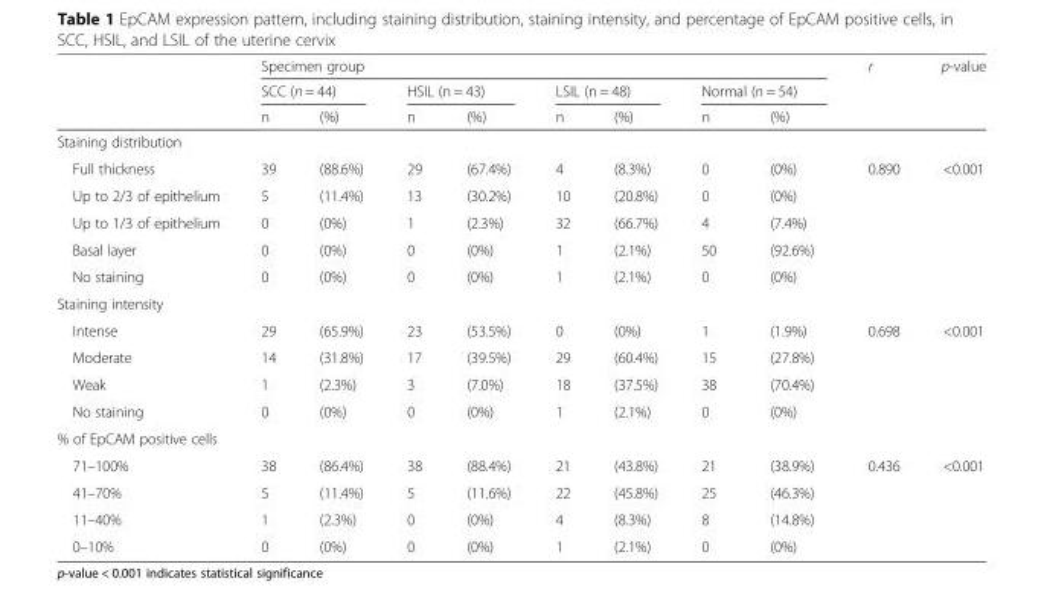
<table><thead><tr><td rowspan="3"></td><td colspan="8">Specimen group</td><td rowspan="3">r</td><td rowspan="3">p-value</td></tr><tr><td colspan="2">SCC (n = 44)</td><td colspan="2">HSIL (n = 43)</td><td colspan="2">LSIL (n = 48)</td><td colspan="2">Normal (n = 54)</td></tr><tr><td>n</td><td>(%)</td><td>n</td><td>(%)</td><td>n</td><td>(%)</td><td>n</td><td>(%)</td></tr></thead><tbody><tr><td colspan="11">Staining distribution</td></tr><tr><td>Full thickness</td><td>39</td><td>(88.6%)</td><td>29</td><td>(67.4%)</td><td>4</td><td>(8.3%)</td><td>0</td><td>(0%)</td><td>0.890</td><td>&lt;0.001</td></tr><tr><td>Up to 2/3 of epithelium</td><td>5</td><td>(11.4%)</td><td>13</td><td>(30.2%)</td><td>10</td><td>(20.8%)</td><td>0</td><td>(0%)</td><td></td><td></td></tr><tr><td>Up to 1/3 of epithelium</td><td>0</td><td>(0%)</td><td>1</td><td>(2.3%)</td><td>32</td><td>(66.7%)</td><td>4</td><td>(7.4%)</td><td></td><td></td></tr><tr><td>Basal layer</td><td>0</td><td>(0%)</td><td>0</td><td>(0%)</td><td>1</td><td>(2.1%)</td><td>50</td><td>(92.6%)</td><td></td><td></td></tr><tr><td>No staining</td><td>0</td><td>(0%)</td><td>0</td><td>(0%)</td><td>1</td><td>(2.1%)</td><td>0</td><td>(0%)</td><td></td><td></td></tr><tr><td colspan="11">Staining intensity</td></tr><tr><td>Intense</td><td>29</td><td>(65.9%)</td><td>23</td><td>(53.5%)</td><td>0</td><td>(0%)</td><td>1</td><td>(1.9%)</td><td>0.698</td><td>&lt;0.001</td></tr><tr><td>Moderate</td><td>14</td><td>(31.8%)</td><td>17</td><td>(39.5%)</td><td>29</td><td>(60.4%)</td><td>15</td><td>(27.8%)</td><td></td><td></td></tr><tr><td>Weak</td><td>1</td><td>(2.3%)</td><td>3</td><td>(7.0%)</td><td>18</td><td>(37.5%)</td><td>38</td><td>(70.4%)</td><td></td><td></td></tr><tr><td>No staining</td><td>0</td><td>(0%)</td><td>0</td><td>(0%)</td><td>1</td><td>(2.1%)</td><td>0</td><td>(0%)</td><td></td><td></td></tr><tr><td colspan="11">% of EpCAM positive cells</td></tr><tr><td>71–100%</td><td>38</td><td>(86.4%)</td><td>38</td><td>(88.4%)</td><td>21</td><td>(43.8%)</td><td>21</td><td>(38.9%)</td><td>0.436</td><td>&lt;0.001</td></tr><tr><td>41–70%</td><td>5</td><td>(11.4%)</td><td>5</td><td>(11.6%)</td><td>22</td><td>(45.8%)</td><td>25</td><td>(46.3%)</td><td></td><td></td></tr><tr><td>11–40%</td><td>1</td><td>(2.3%)</td><td>0</td><td>(0%)</td><td>4</td><td>(8.3%)</td><td>8</td><td>(14.8%)</td><td></td><td></td></tr><tr><td>0–10%</td><td>0</td><td>(0%)</td><td>0</td><td>(0%)</td><td>1</td><td>(2.1%)</td><td>0</td><td>(0%)</td><td></td><td></td></tr></tbody></table>